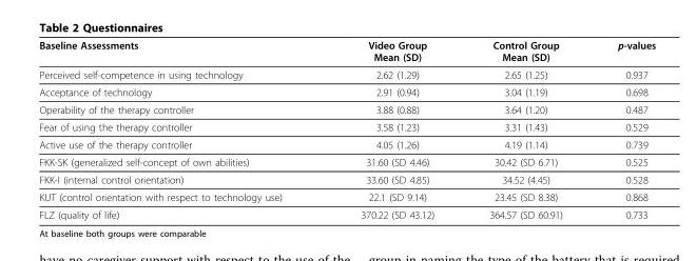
<table><thead><tr><td>Baseline Assessments</td><td>Video Group Mean (SD)</td><td>Control Group Mean (SD)</td><td>p-values</td></tr></thead><tbody><tr><td>Perceived self-competence in using technology</td><td>2.62 (1.29)</td><td>2.65 (1.25)</td><td>0.937</td></tr><tr><td>Acceptance of technology</td><td>2.91 (0.94)</td><td>3.04 (1.19)</td><td>0.698</td></tr><tr><td>Operability of the therapy controller</td><td>3.88 (0.88)</td><td>3.64 (1.20)</td><td>0.487</td></tr><tr><td>Fear of using the therapy controller</td><td>3.58 (1.23)</td><td>3.31 (1.43)</td><td>0.529</td></tr><tr><td>Active use of the therapy controller</td><td>4.05 (1.26)</td><td>4.19 (1.14)</td><td>0.739</td></tr><tr><td>FKK-SK (generalized self-concept of own abilities)</td><td>31.60 (SD 4.46)</td><td>30.42 (SD 6.71)</td><td>0.525</td></tr><tr><td>FKK-I (internal control orientation)</td><td>33.60 (SD 4.85)</td><td>34.52 (4.45)</td><td>0.528</td></tr><tr><td>KUT (control orientation with respect to technology use)</td><td>22.1 (SD 9.14)</td><td>23.45 (SD 8.38)</td><td>0.868</td></tr><tr><td>FLZ (quality of life)</td><td>370.22 (SD 43.12)</td><td>364.57 (SD 60.91)</td><td>0.733</td></tr></tbody></table>